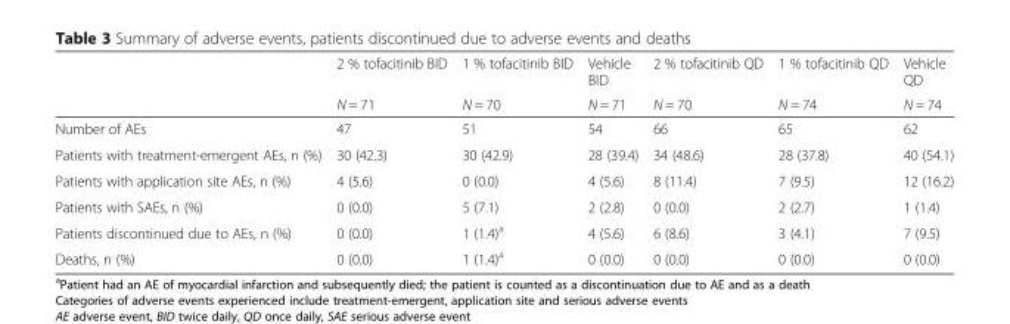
<table><thead><tr><td rowspan="2"></td><td rowspan="2">2 % tofacitinib BID N = 71</td><td rowspan="2">1 % tofacitinib BID N = 70</td><td rowspan="2">Vehicle BID N = 71</td><td rowspan="2">2 % tofacitinib QD N = 70</td><td rowspan="2">1 % tofacitinib QD N = 74</td><td rowspan="2">Vehicle QD N = 74</td></tr><tr></tr></thead><tbody><tr><td>Number of AEs</td><td>47</td><td>51</td><td>54</td><td>66</td><td>65</td><td>62</td></tr><tr><td>Patients with treatment-emergent AEs, n (%)</td><td>30 (42.3)</td><td>30 (42.9)</td><td>28 (39.4)</td><td>34 (48.6)</td><td>28 (37.8)</td><td>40 (54.1)</td></tr><tr><td>Patients with application site AEs, n (%)</td><td>4 (5.6)</td><td>0 (0.0)</td><td>4 (5.6)</td><td>8 (11.4)</td><td>7 (9.5)</td><td>12 (16.2)</td></tr><tr><td>Patients with SAEs, n (%)</td><td>0 (0.0)</td><td>5 (7.1)</td><td>2 (2.8)</td><td>0 (0.0)</td><td>2 (2.7)</td><td>1 (1.4)</td></tr><tr><td>Patients discontinued due to AEs, n (%)</td><td>0 (0.0)</td><td>1 (1.4)<sup>a</sup></td><td>4 (5.6)</td><td>6 (8.6)</td><td>3 (4.1)</td><td>7 (9.5)</td></tr><tr><td>Deaths, n (%)</td><td>0 (0.0)</td><td>1 (1.4)<sup>a</sup></td><td>0 (0.0)</td><td>0 (0.0)</td><td>0 (0.0)</td><td>0 (0.0)</td></tr></tbody></table>